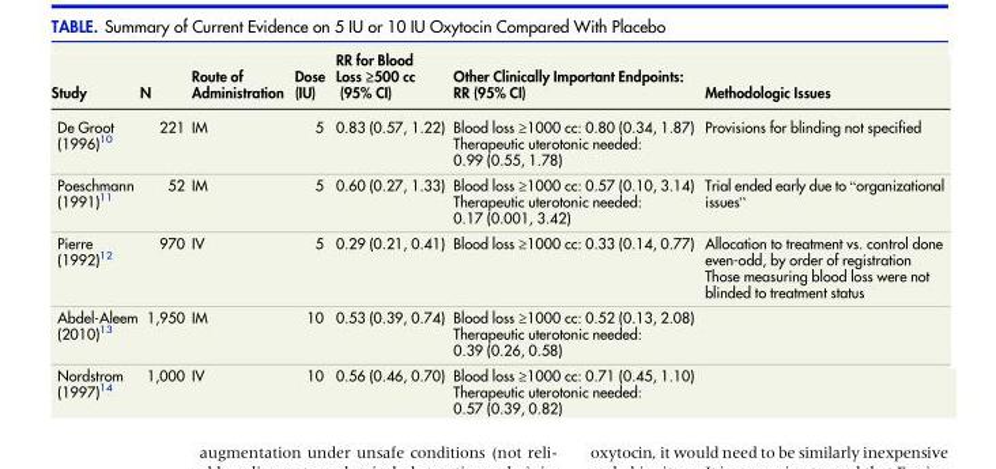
<table><thead><tr><td>Study</td><td>N</td><td>Route of Administration</td><td>Dose (IU)</td><td>RR for Blood Loss ≥500 cc (95% CI)</td><td>Other Clinically Important Endpoints: RR (95% CI)</td><td>Methodologic Issues</td></tr></thead><tbody><tr><td>De Groot (1996)<sup>10</sup></td><td>221</td><td>IM</td><td>5</td><td>0.83 (0.57, 1.22)</td><td>Blood loss ≥1000 cc: 0.80 (0.34, 1.87) Therapeutic uterotonic needed: 0.99 (0.55, 1.78)</td><td>Provisions for blinding not specified</td></tr><tr><td>Poeschmann (1991)<sup>11</sup></td><td>52</td><td>IM</td><td>5</td><td>0.60 (0.27, 1.33)</td><td>Blood loss ≥1000 cc: 0.57 (0.10, 3.14) Therapeutic uterotonic needed: 0.17 (0.001, 3.42)</td><td>Trial ended early due to “organizational issues”</td></tr><tr><td>Pierre (1992)<sup>12</sup></td><td>970</td><td>IV</td><td>5</td><td>0.29 (0.21, 0.41)</td><td>Blood loss ≥1000 cc: 0.33 (0.14, 0.77)</td><td>Allocation to treatment vs. control done even-odd, by order of registration Those measuring blood loss were not blinded to treatment status</td></tr><tr><td>Abdel-Aleem (2010)<sup>13</sup></td><td>1,950</td><td>IM</td><td>10</td><td>0.53 (0.39, 0.74)</td><td>Blood loss ≥1000 cc: 0.52 (0.13, 2.08) Therapeutic uterotonic needed: 0.39 (0.26, 0.58)</td><td></td></tr><tr><td>Nordstrom (1997)<sup>14</sup></td><td>1,000</td><td>IV</td><td>10</td><td>0.56 (0.46, 0.70)</td><td>Blood loss ≥1000 cc: 0.71 (0.45, 1.10) Therapeutic uterotonic needed: 0.57 (0.39, 0.82)</td><td></td></tr></tbody></table>